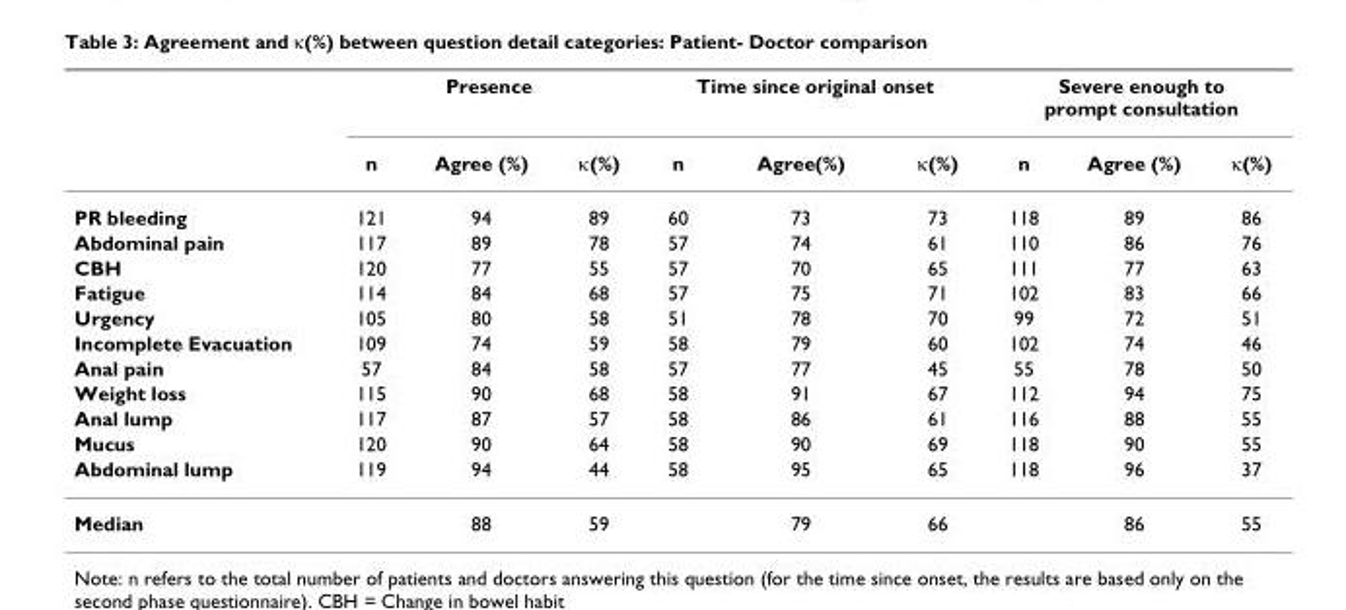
<table><thead><tr><td rowspan="2"></td><td colspan="3">Presence</td><td colspan="3">Time since original onset</td><td colspan="3">Severe enough to prompt consultation</td></tr><tr><td>n</td><td>Agree (%)</td><td>κ(%)</td><td>n</td><td>Agree(%)</td><td>κ(%)</td><td>n</td><td>Agree (%)</td><td>κ(%)</td></tr></thead><tbody><tr><td>PR bleeding</td><td>121</td><td>94</td><td>89</td><td>60</td><td>73</td><td>73</td><td>118</td><td>89</td><td>86</td></tr><tr><td>Abdominal pain</td><td>117</td><td>89</td><td>78</td><td>57</td><td>74</td><td>61</td><td>110</td><td>86</td><td>76</td></tr><tr><td>CBH</td><td>120</td><td>77</td><td>55</td><td>57</td><td>70</td><td>65</td><td>111</td><td>77</td><td>63</td></tr><tr><td>Fatigue</td><td>114</td><td>84</td><td>68</td><td>57</td><td>75</td><td>71</td><td>102</td><td>83</td><td>66</td></tr><tr><td>Urgency</td><td>105</td><td>80</td><td>58</td><td>51</td><td>78</td><td>70</td><td>99</td><td>72</td><td>51</td></tr><tr><td>Incomplete Evacuation</td><td>109</td><td>74</td><td>59</td><td>58</td><td>79</td><td>60</td><td>102</td><td>74</td><td>46</td></tr><tr><td>Anal pain</td><td>57</td><td>84</td><td>58</td><td>57</td><td>77</td><td>45</td><td>55</td><td>78</td><td>50</td></tr><tr><td>Weight loss</td><td>115</td><td>90</td><td>68</td><td>58</td><td>91</td><td>67</td><td>112</td><td>94</td><td>75</td></tr><tr><td>Anal lump</td><td>117</td><td>87</td><td>57</td><td>58</td><td>86</td><td>61</td><td>116</td><td>88</td><td>55</td></tr><tr><td>Mucus</td><td>120</td><td>90</td><td>64</td><td>58</td><td>90</td><td>69</td><td>118</td><td>90</td><td>55</td></tr><tr><td>Abdominal lump</td><td>119</td><td>94</td><td>44</td><td>58</td><td>95</td><td>65</td><td>118</td><td>96</td><td>37</td></tr><tr><td>Median</td><td></td><td>88</td><td>59</td><td></td><td>79</td><td>66</td><td></td><td>86</td><td>55</td></tr></tbody></table>